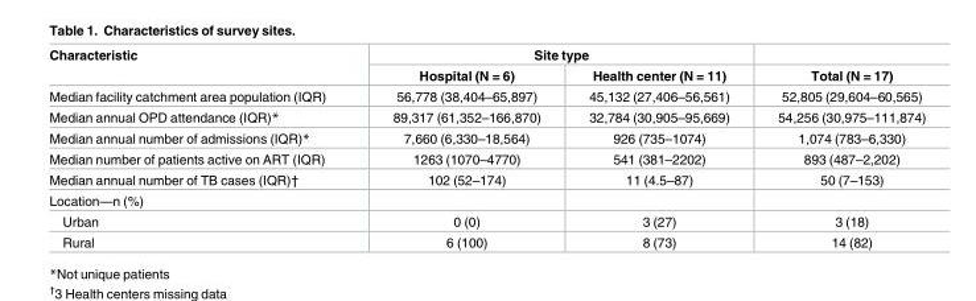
<table><thead><tr><td rowspan="2">Characteristic</td><td colspan="2">Site type</td><td rowspan="2">Total (N = 17)</td></tr><tr><td>Hospital (N = 6)</td><td>Health center (N = 11)</td></tr></thead><tbody><tr><td>Median facility catchment area population (IQR)</td><td>56,778 (38,404–65,897)</td><td>45,132 (27,406–56,561)</td><td>52,805 (29,604–60,565)</td></tr><tr><td>Median annual OPD attendance (IQR)*</td><td>89,317 (61,352–166,870)</td><td>32,784 (30,905–95,669)</td><td>54,256 (30,975–111,874)</td></tr><tr><td>Median annual number of admissions (IQR)*</td><td>7,660 (6,330–18,564)</td><td>926 (735–1074)</td><td>1,074 (783–6,330)</td></tr><tr><td>Median number of patients active on ART (IQR)</td><td>1263 (1070–4770)</td><td>541 (381–2202)</td><td>893 (487–2,202)</td></tr><tr><td>Median annual number of TB cases (IQR)†</td><td>102 (52–174)</td><td>11 (4.5–87)</td><td>50 (7–153)</td></tr><tr><td colspan="4">Location—n (%)</td></tr><tr><td>Urban</td><td>0 (0)</td><td>3 (27)</td><td>3 (18)</td></tr><tr><td>Rural</td><td>6 (100)</td><td>8 (73)</td><td>14 (82)</td></tr></tbody></table>